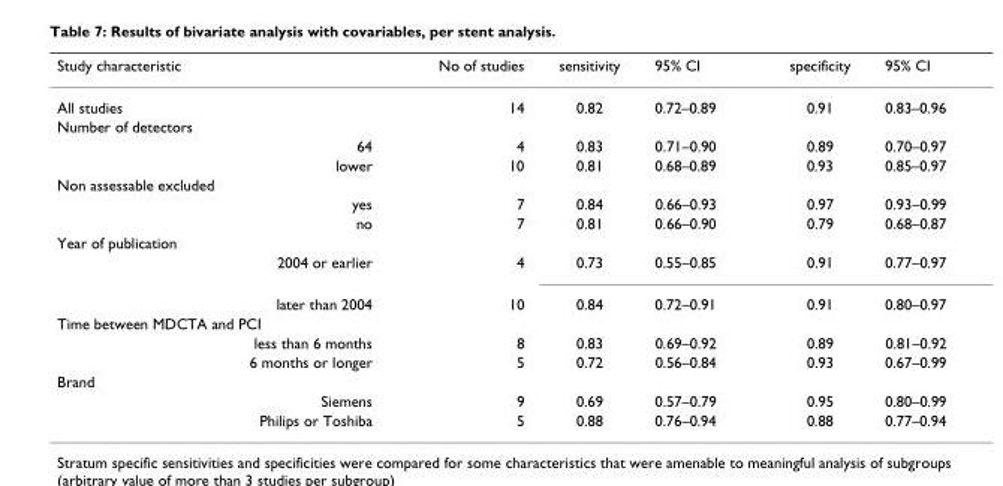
<table><thead><tr><td>Study characteristic</td><td>No of studies</td><td>sensitivity</td><td>95% CI</td><td>specificity</td><td>95% CI</td></tr></thead><tbody><tr><td>All studies</td><td>14</td><td>0.82</td><td>0.72–0.89</td><td>0.91</td><td>0.83–0.96</td></tr><tr><td colspan="6">Number of detectors</td></tr><tr><td>64</td><td>4</td><td>0.83</td><td>0.71–0.90</td><td>0.89</td><td>0.70–0.97</td></tr><tr><td>lower</td><td>10</td><td>0.81</td><td>0.68–0.89</td><td>0.93</td><td>0.85–0.97</td></tr><tr><td colspan="6">Non assessable excluded</td></tr><tr><td>yes</td><td>7</td><td>0.84</td><td>0.66–0.93</td><td>0.97</td><td>0.93–0.99</td></tr><tr><td>no</td><td>7</td><td>0.81</td><td>0.66–0.90</td><td>0.79</td><td>0.68–0.87</td></tr><tr><td colspan="6">Year of publication</td></tr><tr><td>2004 or earlier</td><td>4</td><td>0.73</td><td>0.55–0.85</td><td>0.91</td><td>0.77–0.97</td></tr><tr><td>later than 2004</td><td>10</td><td>0.84</td><td>0.72–0.91</td><td>0.91</td><td>0.80–0.97</td></tr><tr><td colspan="6">Time between MDCTA and PCI</td></tr><tr><td>less than 6 months</td><td>8</td><td>0.83</td><td>0.69–0.92</td><td>0.89</td><td>0.81–0.92</td></tr><tr><td>6 months or longer</td><td>5</td><td>0.72</td><td>0.56–0.84</td><td>0.93</td><td>0.67–0.99</td></tr><tr><td colspan="6">Brand</td></tr><tr><td>Siemens</td><td>9</td><td>0.69</td><td>0.57–0.79</td><td>0.95</td><td>0.80–0.99</td></tr><tr><td>Philips or Toshiba</td><td>5</td><td>0.88</td><td>0.76–0.94</td><td>0.88</td><td>0.77–0.94</td></tr></tbody></table>